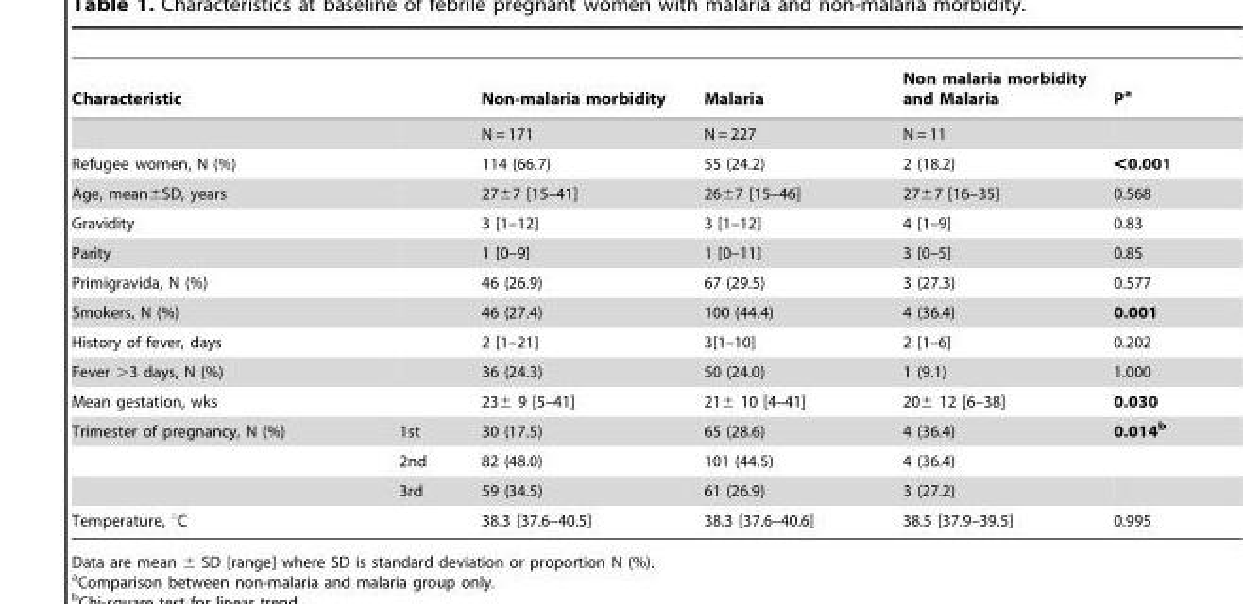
<table><thead><tr><td>Characteristic</td><td></td><td>Non-malaria morbidity</td><td>Malaria</td><td>Non malaria morbidity and Malaria</td><td>P<sup>a</sup></td></tr></thead><tbody><tr><td></td><td></td><td>N = 171</td><td>N = 227</td><td>N = 11</td><td></td></tr><tr><td>Refugee women, N (%)</td><td></td><td>114 (66.7)</td><td>55 (24.2)</td><td>2 (18.2)</td><td>&lt;0.001</td></tr><tr><td>Age, mean±SD, years</td><td></td><td>27±7 [15–41]</td><td>26±7 [15–46]</td><td>2767 [16–35]</td><td>0.568</td></tr><tr><td>Gravidity</td><td></td><td>3 [1–12]</td><td>3 [1–12]</td><td>4 [1–9]</td><td>0.83</td></tr><tr><td>Parity</td><td></td><td>1 [0–9]</td><td>1 [0–11]</td><td>3 [0–5]</td><td>0.85</td></tr><tr><td>Primigravida, N (%)</td><td></td><td>46 (26.9)</td><td>67 (29.5)</td><td>3 (27.3)</td><td>0.577</td></tr><tr><td>Smokers, N (%)</td><td></td><td>46 (27.4)</td><td>100 (44.4)</td><td>4 (36.4)</td><td>0.001</td></tr><tr><td>History of fever, days</td><td></td><td>2 [1–21]</td><td>3[1–10]</td><td>2 [1–6]</td><td>0.202</td></tr><tr><td>Fever &gt;3 days, N (%)</td><td></td><td>36 (24.3)</td><td>50 (24.0)</td><td>1 (9.1)</td><td>1.000</td></tr><tr><td>Mean gestation, wks</td><td></td><td>23± 9 [5–41]</td><td>21± 10 [4–41]</td><td>206 12 [6–38]</td><td>0.030</td></tr><tr><td rowspan="3">Trimester of pregnancy, N (%)</td><td>1st</td><td>30 (17.5)</td><td>65 (28.6)</td><td>4 (36.4)</td><td>0.014b</td></tr><tr><td>2nd</td><td>82 (48.0)</td><td>101 (44.5)</td><td>4 (36.4)</td><td></td></tr><tr><td>3rd</td><td>59 (34.5)</td><td>61 (26.9)</td><td>3 (27.2)</td><td></td></tr><tr><td>Temperature, °C</td><td></td><td>38.3 [37.6–40.5]</td><td>38.3 [37.6–40.6]</td><td>38.5 [37.9–39.5]</td><td>0.995</td></tr></tbody></table>